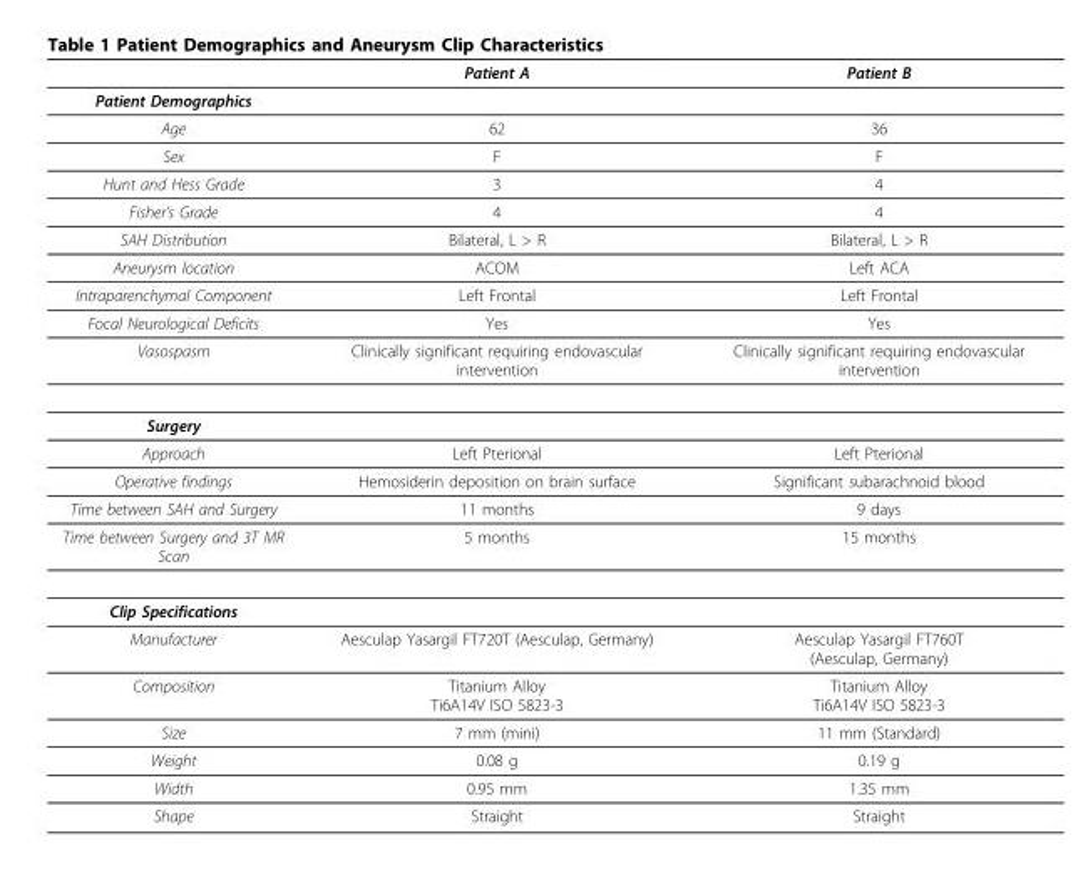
<table><thead><tr><td></td><td>Patient A</td><td>Patient B</td></tr></thead><tbody><tr><td colspan="3">Patient Demographics</td></tr><tr><td>Age</td><td>62</td><td>36</td></tr><tr><td>Sex</td><td>F</td><td>F</td></tr><tr><td>Hunt and Hess Grade</td><td>3</td><td>4</td></tr><tr><td>Fisher’s Grade</td><td>4</td><td>4</td></tr><tr><td>SAH Distribution</td><td>Bilateral, L &gt; R</td><td>Bilateral, L &gt; R</td></tr><tr><td>Aneurysm location</td><td>ACOM</td><td>Left ACA</td></tr><tr><td>Intraparenchymal Component</td><td>Left Frontal</td><td>Left Frontal</td></tr><tr><td>Focal Neurological Deficits</td><td>Yes</td><td>Yes</td></tr><tr><td>Vasospasm</td><td>Clinically significant requiring endovascular intervention</td><td>Clinically significant requiring endovascular intervention</td></tr><tr><td colspan="3">Surgery</td></tr><tr><td>Approach</td><td>Left Pterional</td><td>Left Pterional</td></tr><tr><td>Operative findings</td><td>Hemosiderin deposition on brain surface</td><td>Significant subarachnoid blood</td></tr><tr><td>Time between SAH and Surgery</td><td>11 months</td><td>9 days</td></tr><tr><td>Time between Surgery and 3T MR Scan</td><td>5 months</td><td>15 months</td></tr><tr><td colspan="3">Clip Specifications</td></tr><tr><td>Manufacturer</td><td>Aesculap Yasargil FT720T (Aesculap, Germany)</td><td>Aesculap Yasargil FT760T (Aesculap, Germany)</td></tr><tr><td>Composition</td><td>Titanium Alloy Ti6A14V ISO 5823-3</td><td>Titanium Alloy Ti6A14V ISO 5823-3</td></tr><tr><td>Size</td><td>7 mm (mini)</td><td>11 mm (Standard)</td></tr><tr><td>Weight</td><td>0.08 g</td><td>0.19 g</td></tr><tr><td>Width</td><td>0.95 mm</td><td>1.35 mm</td></tr><tr><td>Shape</td><td>Straight</td><td>Straight</td></tr></tbody></table>